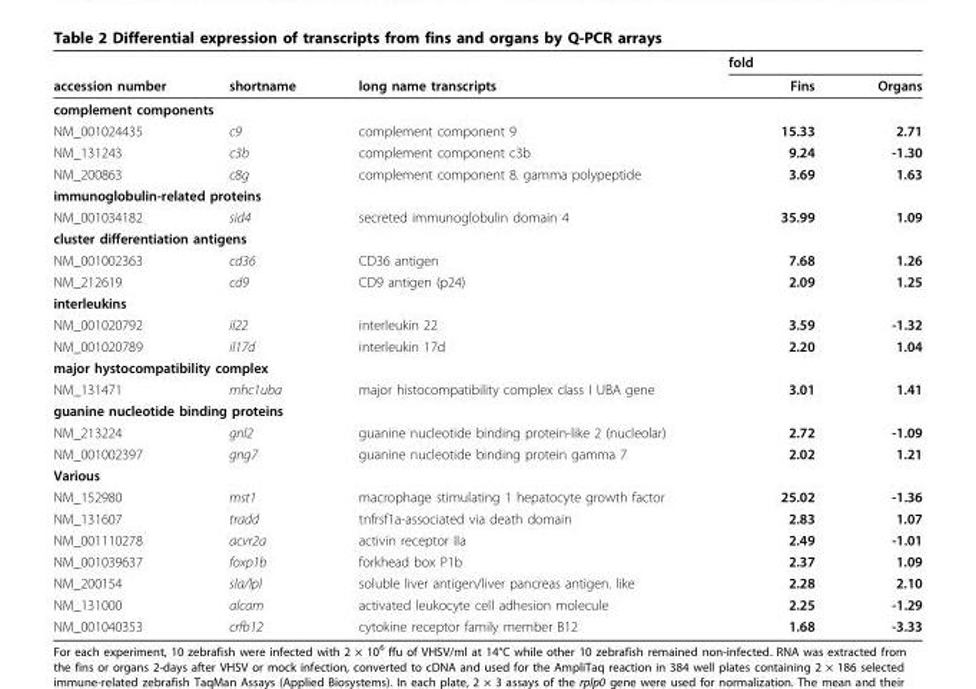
<table><thead><tr><td rowspan="2">accession number</td><td rowspan="2">shortname</td><td rowspan="2">long name transcripts</td><td colspan="2">fold</td></tr><tr><td>Fins</td><td>Organs</td></tr></thead><tbody><tr><td colspan="5">complement components</td></tr><tr><td>NM_001024435</td><td>c9</td><td>complement component 9</td><td>15.33</td><td>2.71</td></tr><tr><td>NM_131243</td><td>c3b</td><td>complement component c3b</td><td>9.24</td><td>-1.30</td></tr><tr><td>NM_200863</td><td>c8g</td><td>complement component 8. gamma polypeptide</td><td>3.69</td><td>1.63</td></tr><tr><td colspan="5">immunoglobulin-related proteins</td></tr><tr><td>NM_001034182</td><td>sid4</td><td>secreted immunoglobulin domain 4</td><td>35.99</td><td>1.09</td></tr><tr><td colspan="5">cluster differentiation antigens</td></tr><tr><td>NM_001002363</td><td>cd36</td><td>CD36 antigen</td><td>7.68</td><td>1.26</td></tr><tr><td>NM_212619</td><td>cd9</td><td>CD9 antigen (p24)</td><td>2.09</td><td>1.25</td></tr><tr><td colspan="5">interleukins</td></tr><tr><td>NM_001020792</td><td>il22</td><td>interleukin 22</td><td>3.59</td><td>-1.32</td></tr><tr><td>NM_001020789</td><td>il17d</td><td>interleukin 17d</td><td>2.20</td><td>1.04</td></tr><tr><td colspan="5">major hystocompatibility complex</td></tr><tr><td>NM_131471</td><td>mhc1uba</td><td>major histocompatibility complex class I UBA gene</td><td>3.01</td><td>1.41</td></tr><tr><td colspan="5">guanine nucleotide binding proteins</td></tr><tr><td>NM_213224</td><td>gnl2</td><td>guanine nucleotide binding protein-like 2 (nucleolar)</td><td>2.72</td><td>-1.09</td></tr><tr><td>NM_001002397</td><td>gng7</td><td>guanine nucleotide binding protein gamma 7</td><td>2.02</td><td>1.21</td></tr><tr><td colspan="5">Various</td></tr><tr><td>NM_152980</td><td>mst1</td><td>macrophage stimulating 1 hepatocyte growth factor</td><td>25.02</td><td>-1.36</td></tr><tr><td>NM_131607</td><td>tradd</td><td>tnfrsf1a-associated via death domain</td><td>2.83</td><td>1.07</td></tr><tr><td>NM_001110278</td><td>acvr2a</td><td>activin receptor IIa</td><td>2.49</td><td>-1.01</td></tr><tr><td>NM_001039637</td><td>foxp1b</td><td>forkhead box P1b</td><td>2.37</td><td>1.09</td></tr><tr><td>NM_200154</td><td>sla/lpl</td><td>soluble liver antigen/liver pancreas antigen. like</td><td>2.28</td><td>2.10</td></tr><tr><td>NM_131000</td><td>alcam</td><td>activated leukocyte cell adhesion molecule</td><td>2.25</td><td>-1.29</td></tr><tr><td>NM_001040353</td><td>crfb12</td><td>cytokine receptor family member B12</td><td>1.68</td><td>-3.33</td></tr></tbody></table>